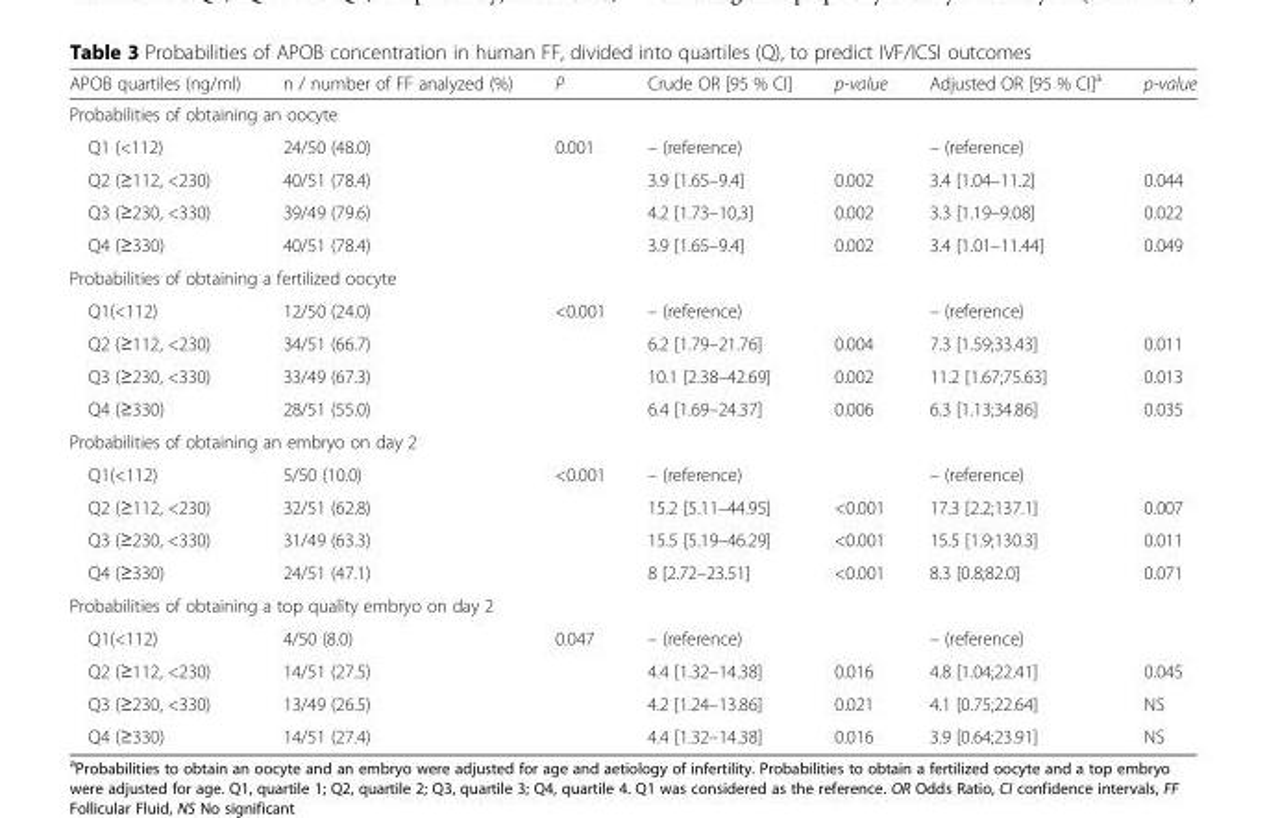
<table><thead><tr><td>APOB quartiles (ng/ml)</td><td>n / number of FF analyzed (%)</td><td>P</td><td>Crude OR [95 % CI]</td><td>p-value</td><td>Adjusted OR [95 % CI]<sup>a</sup></td><td>p-value</td></tr></thead><tbody><tr><td colspan="7">Probabilities of obtaining an oocyte</td></tr><tr><td>Q1 (&lt;112)</td><td>24/50 (48.0)</td><td rowspan="4">0.001</td><td>– (reference)</td><td></td><td>– (reference)</td><td></td></tr><tr><td>Q2 (≥112, &lt;230)</td><td>40/51 (78.4)</td><td>3.9 [1.65–9.4]</td><td>0.002</td><td>3.4 [1.04–11.2]</td><td>0.044</td></tr><tr><td>Q3 (≥230, &lt;330)</td><td>39/49 (79.6)</td><td>4.2 [1.73–10,3]</td><td>0.002</td><td>3.3 [1.19–9.08]</td><td>0.022</td></tr><tr><td>Q4 (≥330)</td><td>40/51 (78.4)</td><td>3.9 [1.65–9.4]</td><td>0.002</td><td>3.4 [1.01–11.44]</td><td>0.049</td></tr><tr><td colspan="7">Probabilities of obtaining a fertilized oocyte</td></tr><tr><td>Q1(&lt;112)</td><td>12/50 (24.0)</td><td rowspan="4">&lt;0.001</td><td>– (reference)</td><td></td><td>– (reference)</td><td></td></tr><tr><td>Q2 (≥112, &lt;230)</td><td>34/51 (66.7)</td><td>6.2 [1.79–21.76]</td><td>0.004</td><td>7.3 [1.59;33.43]</td><td>0.011</td></tr><tr><td>Q3 (≥230, &lt;330)</td><td>33/49 (67.3)</td><td>10.1 [2.38–42.69]</td><td>0.002</td><td>11.2 [1.67;75.63]</td><td>0.013</td></tr><tr><td>Q4 (≥330)</td><td>28/51 (55.0)</td><td>6.4 [1.69–24.37]</td><td>0.006</td><td>6.3 [1.13;34.86]</td><td>0.035</td></tr><tr><td colspan="7">Probabilities of obtaining an embryo on day 2</td></tr><tr><td>Q1(&lt;112)</td><td>5/50 (10.0)</td><td rowspan="4">&lt;0.001</td><td>– (reference)</td><td></td><td>– (reference)</td><td></td></tr><tr><td>Q2 (≥112, &lt;230)</td><td>32/51 (62.8)</td><td>15.2 [5.11–44.95]</td><td>&lt;0.001</td><td>17.3 [2.2;137.1]</td><td>0.007</td></tr><tr><td>Q3 (≥230, &lt;330)</td><td>31/49 (63.3)</td><td>15.5 [5.19–46.29]</td><td>&lt;0.001</td><td>15.5 [1.9;130.3]</td><td>0.011</td></tr><tr><td>Q4 (≥330)</td><td>24/51 (47.1)</td><td>8 [2.72–23.51]</td><td>&lt;0.001</td><td>8.3 [0.8;82.0]</td><td>0.071</td></tr><tr><td colspan="7">Probabilities of obtaining a top quality embryo on day 2</td></tr><tr><td>Q1(&lt;112)</td><td>4/50 (8.0)</td><td rowspan="4">0.047</td><td>– (reference)</td><td></td><td>– (reference)</td><td></td></tr><tr><td>Q2 (≥112, &lt;230)</td><td>14/51 (27.5)</td><td>4.4 [1.32–14.38]</td><td>0.016</td><td>4.8 [1.04;22.41]</td><td>0.045</td></tr><tr><td>Q3 (≥230, &lt;330)</td><td>13/49 (26.5)</td><td>4.2 [1.24–13.86]</td><td>0.021</td><td>4.1 [0.75;22.64]</td><td>NS</td></tr><tr><td>Q4 (≥330)</td><td>14/51 (27.4)</td><td>4.4 [1.32–14.38]</td><td>0.016</td><td>3.9 [0.64;23.91]</td><td>NS</td></tr></tbody></table>